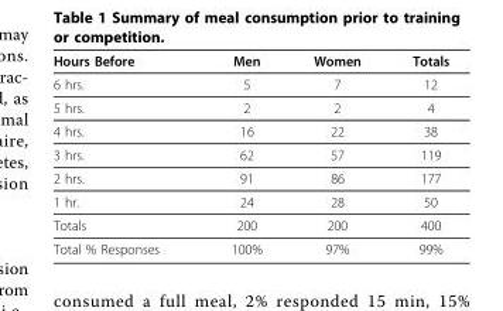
<table><thead><tr><td>Hours Before</td><td>Men</td><td>Women</td><td>Totals</td></tr></thead><tbody><tr><td>6 hrs.</td><td>5</td><td>7</td><td>12</td></tr><tr><td>5 hrs.</td><td>2</td><td>2</td><td>4</td></tr><tr><td>4 hrs.</td><td>16</td><td>22</td><td>38</td></tr><tr><td>3 hrs.</td><td>62</td><td>57</td><td>119</td></tr><tr><td>2 hrs.</td><td>91</td><td>86</td><td>177</td></tr><tr><td>1 hr.</td><td>24</td><td>28</td><td>50</td></tr><tr><td>Totals</td><td>200</td><td>200</td><td>400</td></tr><tr><td>Total % Responses</td><td>100%</td><td>97%</td><td>99%</td></tr></tbody></table>